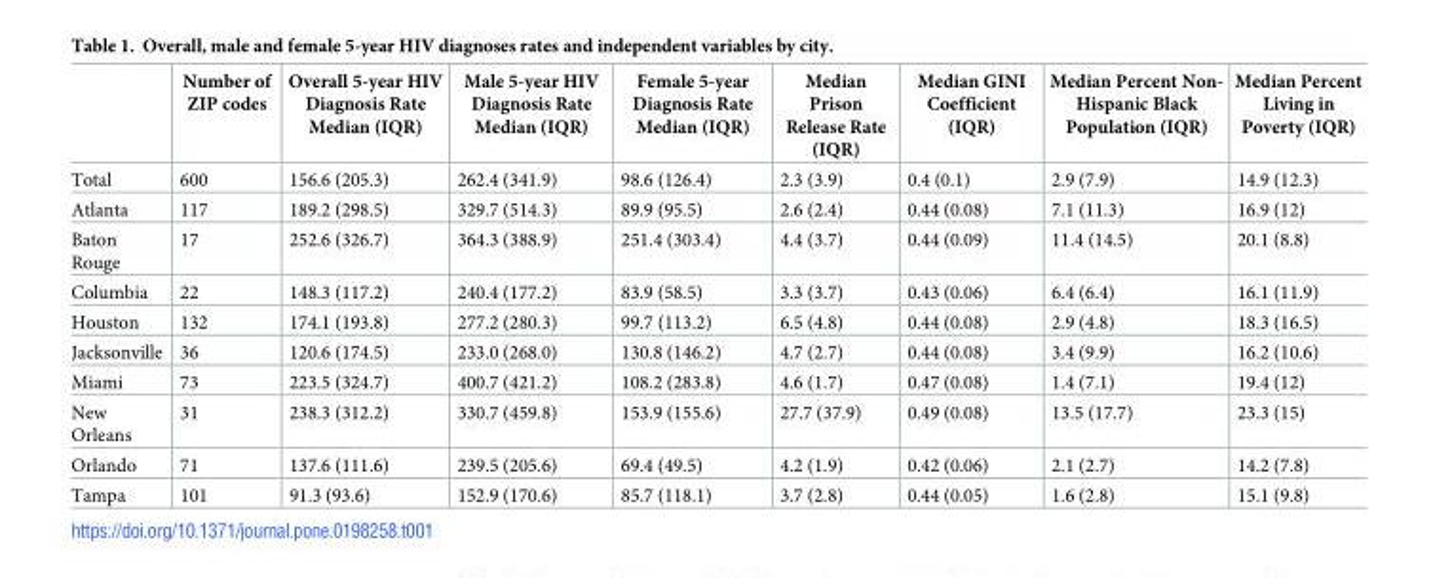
<table><thead><tr><td></td><td>Number of ZIP codes</td><td>Overall 5-year HIV Diagnosis Rate Median (IQR)</td><td>Male 5-year HIV Diagnosis Rate Median (IQR)</td><td>Female 5-year Diagnosis Rate Median (IQR)</td><td>Median Prison Release Rate (IQR)</td><td>Median GINI Coefficient (IQR)</td><td>Median Percent Non- Hispanic Black Population (IQR)</td><td>Median Percent Living in Poverty (IQR)</td></tr></thead><tbody><tr><td>Total</td><td>600</td><td>156.6 (205.3)</td><td>262.4 (341.9)</td><td>98.6 (126.4)</td><td>2.3 (3.9)</td><td>0.4 (0.1)</td><td>2.9 (7.9)</td><td>14.9 (12.3)</td></tr><tr><td>Atlanta</td><td>117</td><td>189.2 (298.5)</td><td>329.7 (514.3)</td><td>89.9 (95.5)</td><td>2.6 (2.4)</td><td>0.44 (0.08)</td><td>7.1 (11.3)</td><td>16.9 (12)</td></tr><tr><td>Baton Rouge</td><td>17</td><td>252.6 (326.7)</td><td>364.3 (388.9)</td><td>251.4 (303.4)</td><td>4.4 (3.7)</td><td>0.44 (0.09)</td><td>11.4 (14.5)</td><td>20.1 (8.8)</td></tr><tr><td>Columbia</td><td>22</td><td>148.3 (117.2)</td><td>240.4 (177.2)</td><td>83.9 (58.5)</td><td>3.3 (3.7)</td><td>0.43 (0.06)</td><td>6.4 (6.4)</td><td>16.1 (11.9)</td></tr><tr><td>Houston</td><td>132</td><td>174.1 (193.8)</td><td>277.2 (280.3)</td><td>99.7 (113.2)</td><td>6.5 (4.8)</td><td>0.44 (0.08)</td><td>2.9 (4.8)</td><td>18.3 (16.5)</td></tr><tr><td>Jacksonville</td><td>36</td><td>120.6 (174.5)</td><td>233.0 (268.0)</td><td>130.8 (146.2)</td><td>4.7 (2.7)</td><td>0.44 (0.08)</td><td>3.4 (9.9)</td><td>16.2 (10.6)</td></tr><tr><td>Miami</td><td>73</td><td>223.5 (324.7)</td><td>400.7 (421.2)</td><td>108.2 (283.8)</td><td>4.6 (1.7)</td><td>0.47 (0.08)</td><td>1.4 (7.1)</td><td>19.4 (12)</td></tr><tr><td>New Orleans</td><td>31</td><td>238.3 (312.2)</td><td>330.7 (459.8)</td><td>153.9 (155.6)</td><td>27.7 (37.9)</td><td>0.49 (0.08)</td><td>13.5 (17.7)</td><td>23.3 (15)</td></tr><tr><td>Orlando</td><td>71</td><td>137.6 (111.6)</td><td>239.5 (205.6)</td><td>69.4 (49.5)</td><td>4.2 (1.9)</td><td>0.42 (0.06)</td><td>2.1 (2.7)</td><td>14.2 (7.8)</td></tr><tr><td>Tampa</td><td>101</td><td>91.3 (93.6)</td><td>152.9 (170.6)</td><td>85.7 (118.1)</td><td>3.7 (2.8)</td><td>0.44 (0.05)</td><td>1.6 (2.8)</td><td>15.1 (9.8)</td></tr></tbody></table>